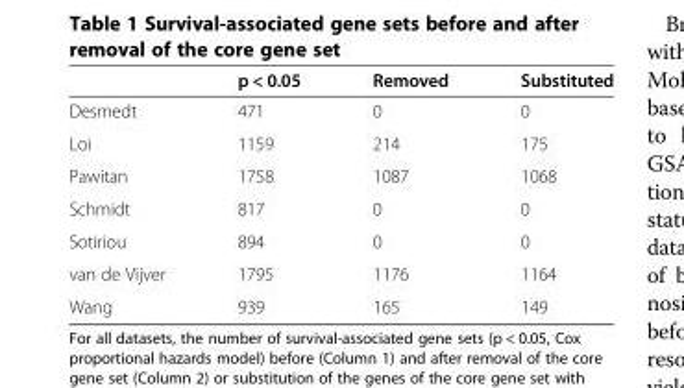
<table><thead><tr><td></td><td>p &lt; 0.05</td><td>Removed</td><td>Substituted</td></tr></thead><tbody><tr><td>Desmedt</td><td>471</td><td>0</td><td>0</td></tr><tr><td>Loi</td><td>1159</td><td>214</td><td>175</td></tr><tr><td>Pawitan</td><td>1758</td><td>1087</td><td>1068</td></tr><tr><td>Schmidt</td><td>817</td><td>0</td><td>0</td></tr><tr><td>Sotiriou</td><td>894</td><td>0</td><td>0</td></tr><tr><td>van de Vijver</td><td>1795</td><td>1176</td><td>1164</td></tr><tr><td>Wang</td><td>939</td><td>165</td><td>149</td></tr></tbody></table>